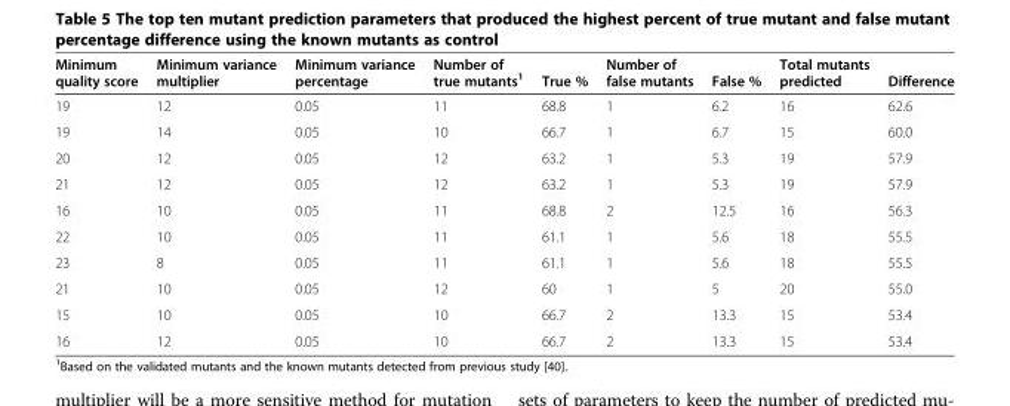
<table><thead><tr><td>Minimum quality score</td><td>Minimum variance multiplier</td><td>Minimum variance percentage</td><td>Number of true mutants<sup>1</sup></td><td>True %</td><td>Number of false mutants</td><td>False %</td><td>Total mutants predicted</td><td>Difference</td></tr></thead><tbody><tr><td>19</td><td>12</td><td>0.05</td><td>11</td><td>68.8</td><td>1</td><td>6.2</td><td>16</td><td>62.6</td></tr><tr><td>19</td><td>14</td><td>0.05</td><td>10</td><td>66.7</td><td>1</td><td>6.7</td><td>15</td><td>60.0</td></tr><tr><td>20</td><td>12</td><td>0.05</td><td>12</td><td>63.2</td><td>1</td><td>5.3</td><td>19</td><td>57.9</td></tr><tr><td>21</td><td>12</td><td>0.05</td><td>12</td><td>63.2</td><td>1</td><td>5.3</td><td>19</td><td>57.9</td></tr><tr><td>16</td><td>10</td><td>0.05</td><td>11</td><td>68.8</td><td>2</td><td>12.5</td><td>16</td><td>56.3</td></tr><tr><td>22</td><td>10</td><td>0.05</td><td>11</td><td>61.1</td><td>1</td><td>5.6</td><td>18</td><td>55.5</td></tr><tr><td>23</td><td>8</td><td>0.05</td><td>11</td><td>61.1</td><td>1</td><td>5.6</td><td>18</td><td>55.5</td></tr><tr><td>21</td><td>10</td><td>0.05</td><td>12</td><td>60</td><td>1</td><td>5</td><td>20</td><td>55.0</td></tr><tr><td>15</td><td>10</td><td>0.05</td><td>10</td><td>66.7</td><td>2</td><td>13.3</td><td>15</td><td>53.4</td></tr><tr><td>16</td><td>12</td><td>0.05</td><td>10</td><td>66.7</td><td>2</td><td>13.3</td><td>15</td><td>53.4</td></tr></tbody></table>